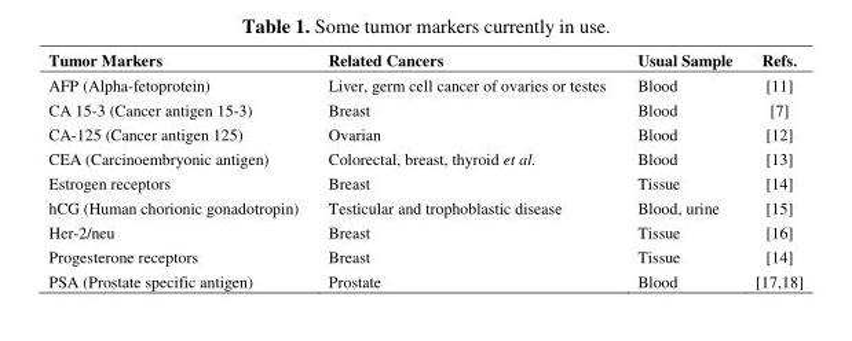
<table><thead><tr><td>Tumor Markers</td><td>Related Cancers</td><td>Usual Sample</td><td>Refs.</td></tr></thead><tbody><tr><td>AFP (Alpha-fetoprotein)</td><td>Liver, germ cell cancer of ovaries or testes</td><td>Blood</td><td>[11]</td></tr><tr><td>CA 15-3 (Cancer antigen 15-3)</td><td>Breast</td><td>Blood</td><td>[7]</td></tr><tr><td>CA-125 (Cancer antigen 125)</td><td>Ovarian</td><td>Blood</td><td>[12]</td></tr><tr><td>CEA (Carcinoembryonic antigen)</td><td>Colorectal, breast, thyroid et al.</td><td>Blood</td><td>[13]</td></tr><tr><td>Estrogen receptors</td><td>Breast</td><td>Tissue</td><td>[14]</td></tr><tr><td>hCG (Human chorionic gonadotropin)</td><td>Testicular and trophoblastic disease</td><td>Blood, urine</td><td>[15]</td></tr><tr><td>Her-2/neu</td><td>Breast</td><td>Tissue</td><td>[16]</td></tr><tr><td>Progesterone receptors</td><td>Breast</td><td>Tissue</td><td>[14]</td></tr><tr><td>PSA (Prostate specific antigen)</td><td>Prostate</td><td>Blood</td><td>[17,18]</td></tr></tbody></table>